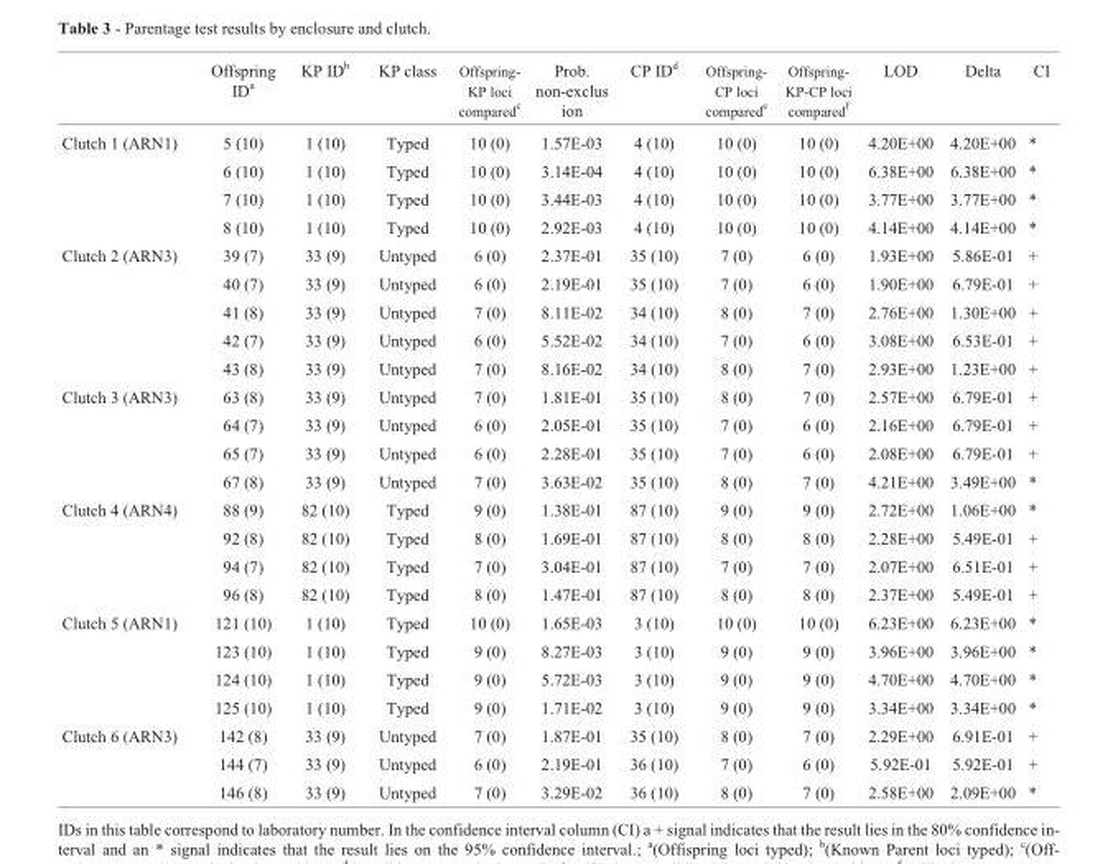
<table><thead><tr><td></td><td>Offspring ID<sup>a</sup></td><td>KP ID<sup>b</sup></td><td>KP class</td><td>Offspring- KP loci compared<sup>c</sup></td><td>Prob. non-exclus ion</td><td>CP ID<sup>d</sup></td><td>Offspring- CP loci compared<sup>e</sup></td><td>Offspring- KP-CP loci compared<sup>f</sup></td><td>LOD</td><td>Delta</td><td>CI</td></tr></thead><tbody><tr><td rowspan="4">Clutch 1 (ARN1)</td><td>5 (10)</td><td>1 (10)</td><td>Typed</td><td>10 (0)</td><td>1.57E-03</td><td>4 (10)</td><td>10 (0)</td><td>10 (0)</td><td>4.20E+00</td><td>4.20E+00</td><td>*</td></tr><tr><td>6 (10)</td><td>1 (10)</td><td>Typed</td><td>10 (0)</td><td>3.14E-04</td><td>4 (10)</td><td>10 (0)</td><td>10 (0)</td><td>6.38E+00</td><td>6.38E+00</td><td>*</td></tr><tr><td>7 (10)</td><td>1 (10)</td><td>Typed</td><td>10 (0)</td><td>3.44E-03</td><td>4 (10)</td><td>10 (0)</td><td>10 (0)</td><td>3.77E+00</td><td>3.77E+00</td><td>*</td></tr><tr><td>8 (10)</td><td>1 (10)</td><td>Typed</td><td>10 (0)</td><td>2.92E-03</td><td>4 (10)</td><td>10 (0)</td><td>10 (0)</td><td>4.14E+00</td><td>4.14E+00</td><td>*</td></tr><tr><td rowspan="5">Clutch 2 (ARN3)</td><td>39 (7)</td><td>33 (9)</td><td>Untyped</td><td>6 (0)</td><td>2.37E-01</td><td>35 (10)</td><td>7 (0)</td><td>6 (0)</td><td>1.93E+00</td><td>5.86E-01</td><td>+</td></tr><tr><td>40 (7)</td><td>33 (9)</td><td>Untyped</td><td>6 (0)</td><td>2.19E-01</td><td>35 (10)</td><td>7 (0)</td><td>6 (0)</td><td>1.90E+00</td><td>6.79E-01</td><td>+</td></tr><tr><td>41 (8)</td><td>33 (9)</td><td>Untyped</td><td>7 (0)</td><td>8.11E-02</td><td>34 (10)</td><td>8 (0)</td><td>7 (0)</td><td>2.76E+00</td><td>1.30E+00</td><td>+</td></tr><tr><td>42 (7)</td><td>33 (9)</td><td>Untyped</td><td>6 (0)</td><td>5.52E-02</td><td>34 (10)</td><td>7 (0)</td><td>6 (0)</td><td>3.08E+00</td><td>6.53E-01</td><td>+</td></tr><tr><td>43 (8)</td><td>33 (9)</td><td>Untyped</td><td>7 (0)</td><td>8.16E-02</td><td>34 (10)</td><td>8 (0)</td><td>7 (0)</td><td>2.93E+00</td><td>1.23E+00</td><td>+</td></tr><tr><td rowspan="4">Clutch 3 (ARN3)</td><td>63 (8)</td><td>33 (9)</td><td>Untyped</td><td>7 (0)</td><td>1.81E-01</td><td>35 (10)</td><td>8 (0)</td><td>7 (0)</td><td>2.57E+00</td><td>6.79E-01</td><td>+</td></tr><tr><td>64 (7)</td><td>33 (9)</td><td>Untyped</td><td>6 (0)</td><td>2.05E-01</td><td>35 (10)</td><td>7 (0)</td><td>6 (0)</td><td>2.16E+00</td><td>6.79E-01</td><td>+</td></tr><tr><td>65 (7)</td><td>33 (9)</td><td>Untyped</td><td>6 (0)</td><td>2.28E-01</td><td>35 (10)</td><td>7 (0)</td><td>6 (0)</td><td>2.08E+00</td><td>6.79E-01</td><td>+</td></tr><tr><td>67 (8)</td><td>33 (9)</td><td>Untyped</td><td>7 (0)</td><td>3.63E-02</td><td>35 (10)</td><td>8 (0)</td><td>7 (0)</td><td>4.21E+00</td><td>3.49E+00</td><td>*</td></tr><tr><td rowspan="4">Clutch 4 (ARN4)</td><td>88 (9)</td><td>82 (10)</td><td>Typed</td><td>9 (0)</td><td>1.38E-01</td><td>87 (10)</td><td>9 (0)</td><td>9 (0)</td><td>2.72E+00</td><td>1.06E+00</td><td>*</td></tr><tr><td>92 (8)</td><td>82 (10)</td><td>Typed</td><td>8 (0)</td><td>1.69E-01</td><td>87 (10)</td><td>8 (0)</td><td>8 (0)</td><td>2.28E+00</td><td>5.49E-01</td><td>+</td></tr><tr><td>94 (7)</td><td>82 (10)</td><td>Typed</td><td>7 (0)</td><td>3.04E-01</td><td>87 (10)</td><td>7 (0)</td><td>7 (0)</td><td>2.07E+00</td><td>6.51E-01</td><td>+</td></tr><tr><td>96 (8)</td><td>82 (10)</td><td>Typed</td><td>8 (0)</td><td>1.47E-01</td><td>87 (10)</td><td>8 (0)</td><td>8 (0)</td><td>2.37E+00</td><td>5.49E-01</td><td>+</td></tr><tr><td rowspan="4">Clutch 5 (ARN1)</td><td>121 (10)</td><td>1 (10)</td><td>Typed</td><td>10 (0)</td><td>1.65E-03</td><td>3 (10)</td><td>10 (0)</td><td>10 (0)</td><td>6.23E+00</td><td>6.23E+00</td><td>*</td></tr><tr><td>123 (10)</td><td>1 (10)</td><td>Typed</td><td>9 (0)</td><td>8.27E-03</td><td>3 (10)</td><td>9 (0)</td><td>9 (0)</td><td>3.96E+00</td><td>3.96E+00</td><td>*</td></tr><tr><td>124 (10)</td><td>1 (10)</td><td>Typed</td><td>9 (0)</td><td>5.72E-03</td><td>3 (10)</td><td>9 (0)</td><td>9 (0)</td><td>4.70E+00</td><td>4.70E+00</td><td>*</td></tr><tr><td>125 (10)</td><td>1 (10)</td><td>Typed</td><td>9 (0)</td><td>1.71E-02</td><td>3 (10)</td><td>9 (0)</td><td>9 (0)</td><td>3.34E+00</td><td>3.34E+00</td><td>*</td></tr><tr><td rowspan="3">Clutch 6 (ARN3)</td><td>142 (8)</td><td>33 (9)</td><td>Untyped</td><td>7 (0)</td><td>1.87E-01</td><td>35 (10)</td><td>8 (0)</td><td>7 (0)</td><td>2.29E+00</td><td>6.91E-01</td><td>+</td></tr><tr><td>144 (7)</td><td>33 (9)</td><td>Untyped</td><td>6 (0)</td><td>2.19E-01</td><td>36 (10)</td><td>7 (0)</td><td>6 (0)</td><td>5.92E-01</td><td>5.92E-01</td><td>+</td></tr><tr><td>146 (8)</td><td>33 (9)</td><td>Untyped</td><td>7 (0)</td><td>3.29E-02</td><td>36 (10)</td><td>8 (0)</td><td>7 (0)</td><td>2.58E+00</td><td>2.09E+00</td><td>*</td></tr></tbody></table>